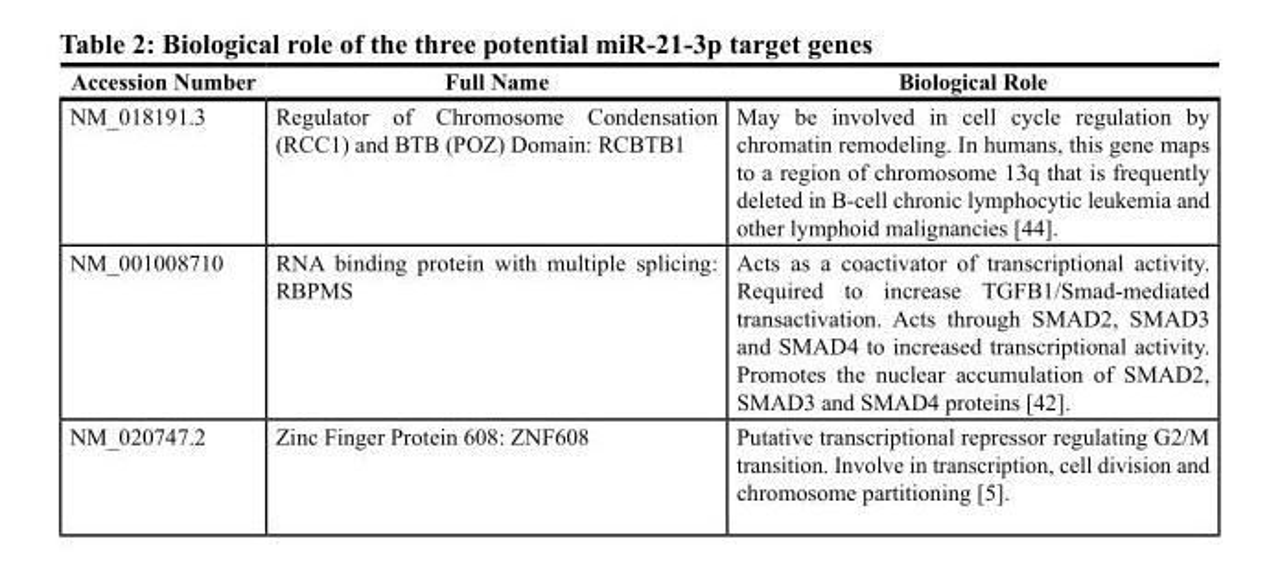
<table><thead><tr><td>Accession Number</td><td>Full Name</td><td>Biological Role</td></tr></thead><tbody><tr><td>NM_018191.3</td><td>Regulator of Chromosome Condensation (RCC1) and BTB (POZ) Domain: RCBTB1</td><td>May be involved in cell cycle regulation by chromatin remodeling. In humans, this gene maps to a region of chromosome 13q that is frequently deleted in B-cell chronic lymphocytic leukemia and other lymphoid malignancies [44].</td></tr><tr><td>NM_001008710</td><td>RNA binding protein with multiple splicing: RBPMS</td><td>Acts as a coactivator of transcriptional activity. Required to increase TGFB1/Smad-mediated transactivation. Acts through SMAD2, SMAD3 and SMAD4 to increased transcriptional activity. Promotes the nuclear accumulation of SMAD2, SMAD3 and SMAD4 proteins [42].</td></tr><tr><td>NM_020747.2</td><td>Zinc Finger Protein 608: ZNF608</td><td>Putative transcriptional repressor regulating G2/M transition. Involve in transcription, cell division and chromosome partitioning [5].</td></tr></tbody></table>